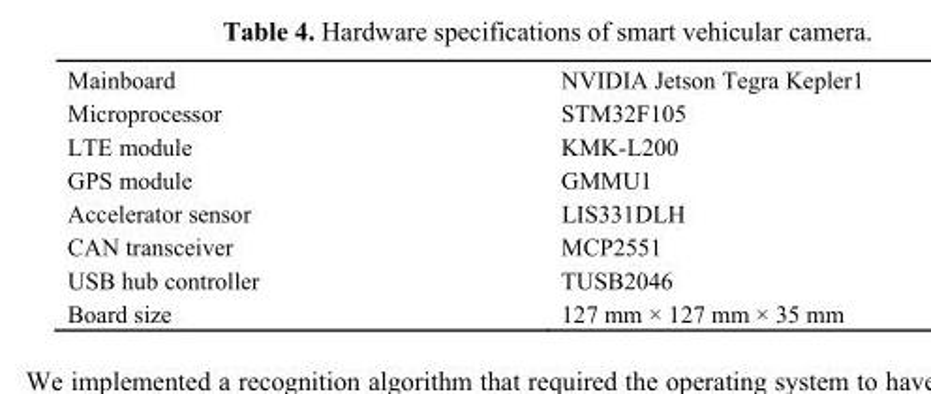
<table><tbody><tr><td>Mainboard</td><td>NVIDIA Jetson Tegra Kepler1</td></tr><tr><td>Microprocessor</td><td>STM32F105</td></tr><tr><td>LTE module</td><td>KMK-L200</td></tr><tr><td>GPS module</td><td>GMMU1</td></tr><tr><td>Accelerator sensor</td><td>LIS331DLH</td></tr><tr><td>CAN transceiver</td><td>MCP2551</td></tr><tr><td>USB hub controller</td><td>TUSB2046</td></tr><tr><td>Board size</td><td>127 mm × 127 mm × 35 mm</td></tr></tbody></table>